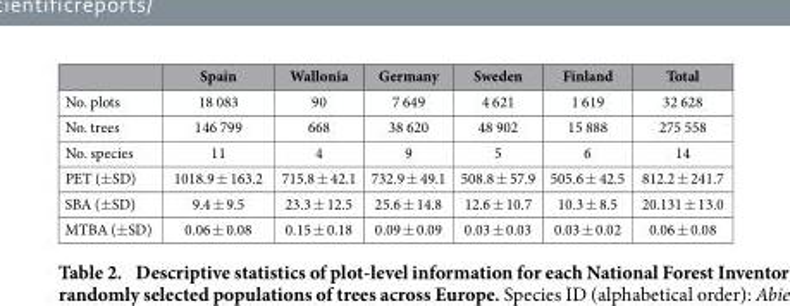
<table><thead><tr><td></td><td>Spain</td><td>Wallonia</td><td>Germany</td><td>Sweden</td><td>Finland</td><td>Total</td></tr></thead><tbody><tr><td>No. plots</td><td>18 083</td><td>90</td><td>7 649</td><td>4 621</td><td>1 619</td><td>32 628</td></tr><tr><td>No. trees</td><td>146 799</td><td>668</td><td>38 620</td><td>48 902</td><td>15 888</td><td>275 558</td></tr><tr><td>No. species</td><td>11</td><td>4</td><td>9</td><td>5</td><td>6</td><td>14</td></tr><tr><td>PET (± SD)</td><td>1018.9 ± 163.2</td><td>715.8 ± 42.1</td><td>732.9 ± 49.1</td><td>508.8 ± 57.9</td><td>505.6 ± 42.5</td><td>812.2 ± 241.7</td></tr><tr><td>SBA (± SD)</td><td>9.4 ± 9.5</td><td>23.3 ± 12.5</td><td>25.6 ± 14.8</td><td>12.6 ± 10.7</td><td>10.3 ± 8.5</td><td>20.131 ± 13.0</td></tr><tr><td>MTBA (± SD)</td><td>0.06 ± 0.08</td><td>0.15 ± 0.18</td><td>0.09 ± 0.09</td><td>0.03 ± 0.03</td><td>0.03 ± 0.02</td><td>0.06 ± 0.08</td></tr></tbody></table>